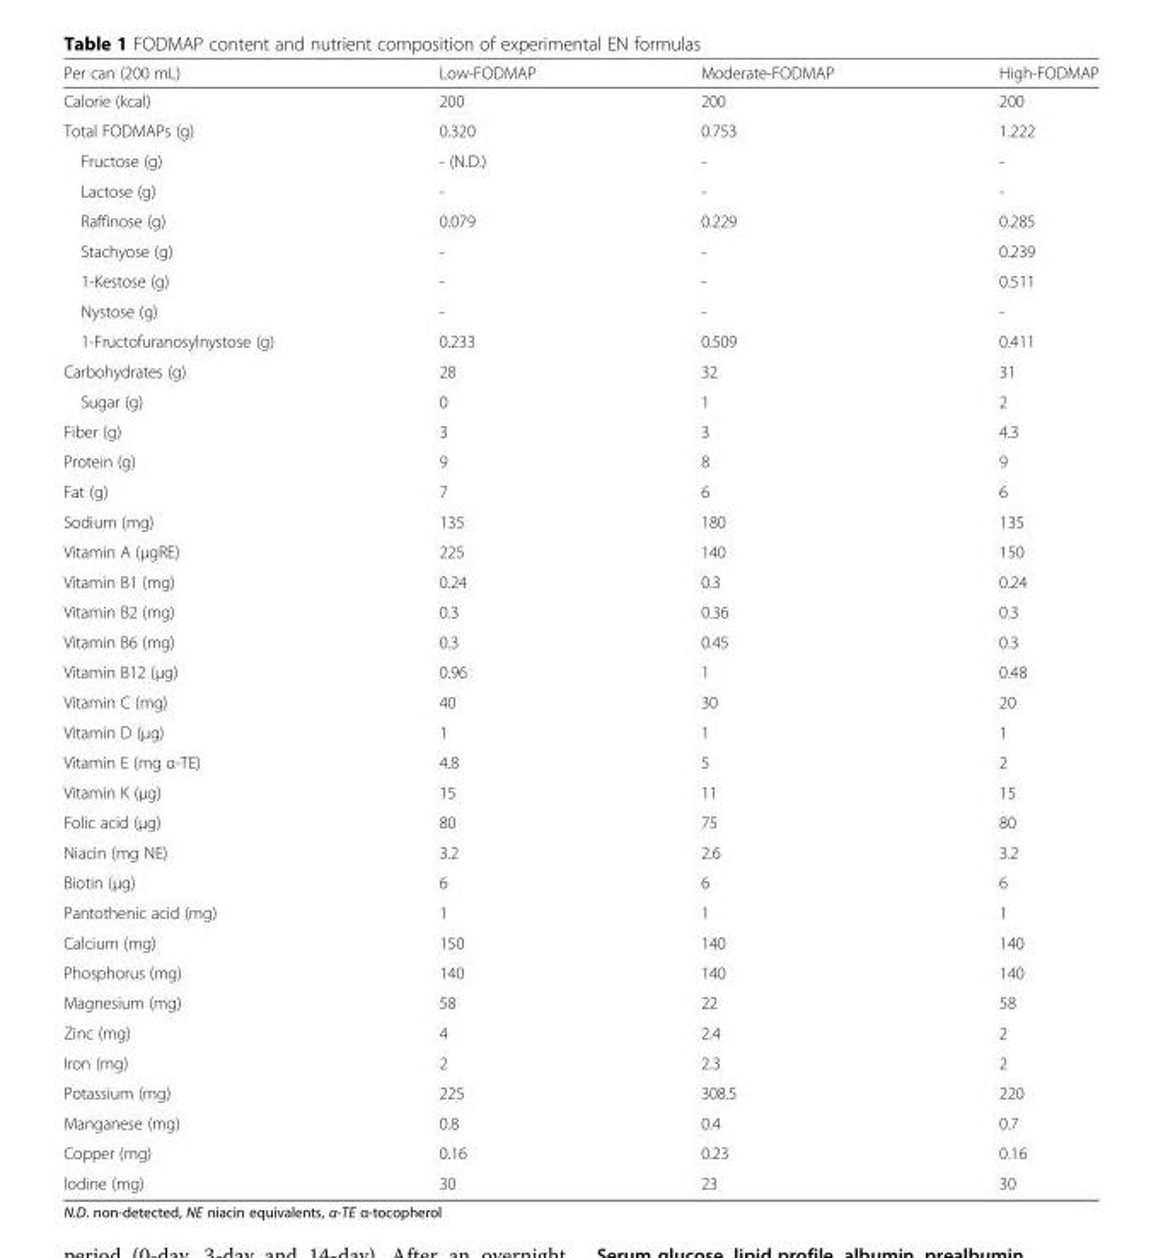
<table><thead><tr><td>Per can (200 mL)</td><td>Low-FODMAP</td><td>Moderate-FODMAP</td><td>High-FODMAP</td></tr></thead><tbody><tr><td>Calorie (kcal)</td><td>200</td><td>200</td><td>200</td></tr><tr><td>Total FODMAPs (g)</td><td>0.320</td><td>0.753</td><td>1.222</td></tr><tr><td>Fructose (g)</td><td>- (N.D.)</td><td>-</td><td>-</td></tr><tr><td>Lactose (g)</td><td>-</td><td>-</td><td>-</td></tr><tr><td>Raffinose (g)</td><td>0.079</td><td>0.229</td><td>0.285</td></tr><tr><td>Stachyose (g)</td><td>-</td><td>-</td><td>0.239</td></tr><tr><td>1-Kestose (g)</td><td>-</td><td>-</td><td>0.511</td></tr><tr><td>Nystose (g)</td><td>-</td><td>-</td><td>-</td></tr><tr><td>1-Fructofuranosylnystose (g)</td><td>0.233</td><td>0.509</td><td>0.411</td></tr><tr><td>Carbohydrates (g)</td><td>28</td><td>32</td><td>31</td></tr><tr><td>Sugar (g)</td><td>0</td><td>1</td><td>2</td></tr><tr><td>Fiber (g)</td><td>3</td><td>3</td><td>4.3</td></tr><tr><td>Protein (g)</td><td>9</td><td>8</td><td>9</td></tr><tr><td>Fat (g)</td><td>7</td><td>6</td><td>6</td></tr><tr><td>Sodium (mg)</td><td>135</td><td>180</td><td>135</td></tr><tr><td>Vitamin A (μgRE)</td><td>225</td><td>140</td><td>150</td></tr><tr><td>Vitamin B1 (mg)</td><td>0.24</td><td>0.3</td><td>0.24</td></tr><tr><td>Vitamin B2 (mg)</td><td>0.3</td><td>0.36</td><td>0.3</td></tr><tr><td>Vitamin B6 (mg)</td><td>0.3</td><td>0.45</td><td>0.3</td></tr><tr><td>Vitamin B12 (μg)</td><td>0.96</td><td>1</td><td>0.48</td></tr><tr><td>Vitamin C (mg)</td><td>40</td><td>30</td><td>20</td></tr><tr><td>Vitamin D (μg)</td><td>1</td><td>1</td><td>1</td></tr><tr><td>Vitamin E (mg α-TE)</td><td>4.8</td><td>5</td><td>2</td></tr><tr><td>Vitamin K (μg)</td><td>15</td><td>11</td><td>15</td></tr><tr><td>Folic acid (μg)</td><td>80</td><td>75</td><td>80</td></tr><tr><td>Niacin (mg NE)</td><td>3.2</td><td>2.6</td><td>3.2</td></tr><tr><td>Biotin (μg)</td><td>6</td><td>6</td><td>6</td></tr><tr><td>Pantothenic acid (mg)</td><td>1</td><td>1</td><td>1</td></tr><tr><td>Calcium (mg)</td><td>150</td><td>140</td><td>140</td></tr><tr><td>Phosphorus (mg)</td><td>140</td><td>140</td><td>140</td></tr><tr><td>Magnesium (mg)</td><td>58</td><td>22</td><td>58</td></tr><tr><td>Zinc (mg)</td><td>4</td><td>2.4</td><td>2</td></tr><tr><td>Iron (mg)</td><td>2</td><td>2.3</td><td>2</td></tr><tr><td>Potassium (mg)</td><td>225</td><td>308.5</td><td>220</td></tr><tr><td>Manganese (mg)</td><td>0.8</td><td>0.4</td><td>0.7</td></tr><tr><td>Copper (mg)</td><td>0.16</td><td>0.23</td><td>0.16</td></tr><tr><td>Iodine (mg)</td><td>30</td><td>23</td><td>30</td></tr></tbody></table>